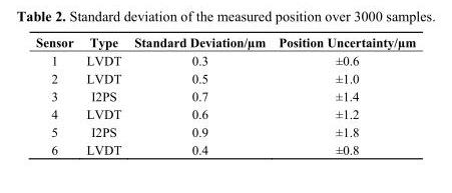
<table><thead><tr><td>Sensor</td><td>Type</td><td>Standard Deviation/µm</td><td>Position Uncertainty/µm</td></tr></thead><tbody><tr><td>1</td><td>LVDT</td><td>0.3</td><td>±0.6</td></tr><tr><td>2</td><td>LVDT</td><td>0.5</td><td>±1.0</td></tr><tr><td>3</td><td>I2PS</td><td>0.7</td><td>±1.4</td></tr><tr><td>4</td><td>LVDT</td><td>0.6</td><td>±1.2</td></tr><tr><td>5</td><td>I2PS</td><td>0.9</td><td>±1.8</td></tr><tr><td>6</td><td>LVDT</td><td>0.4</td><td>±0.8</td></tr></tbody></table>